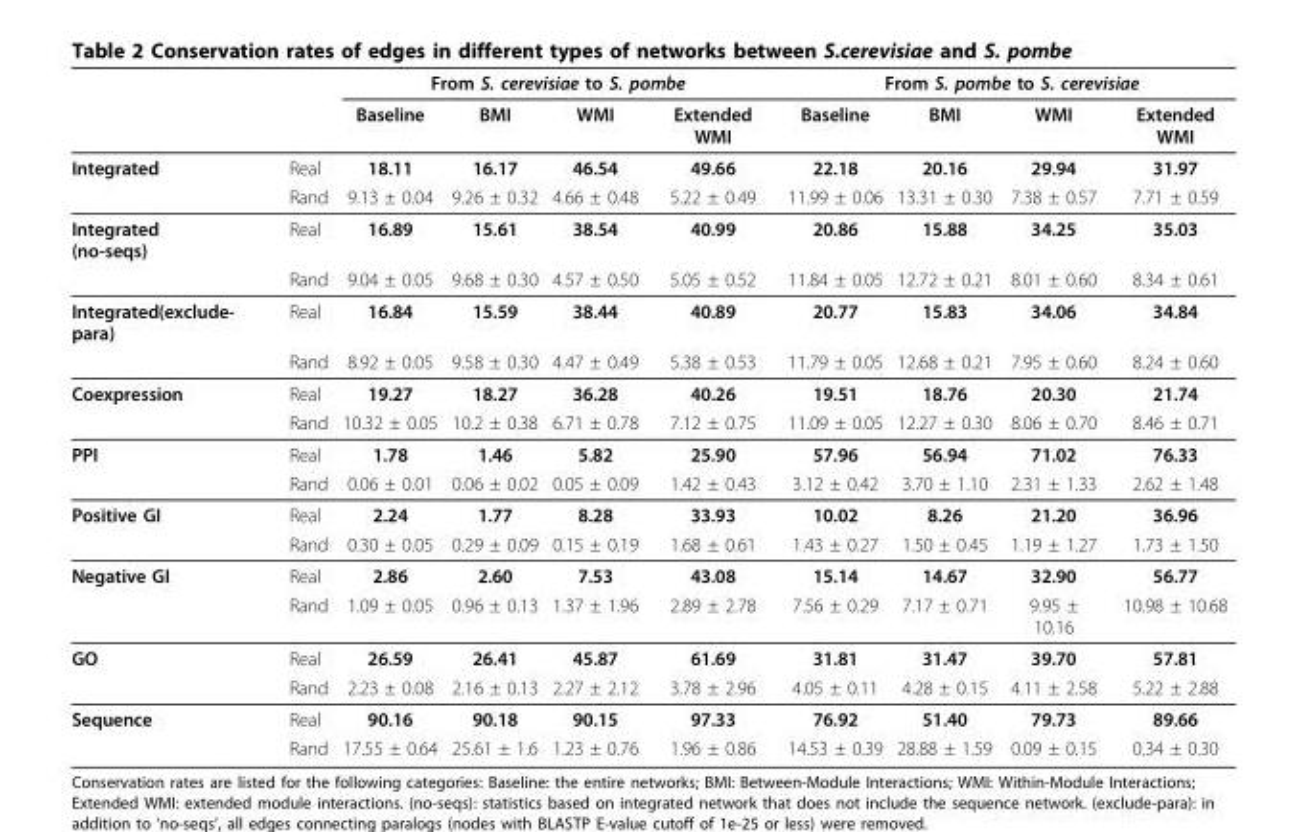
<table><thead><tr><td rowspan="2"></td><td rowspan="2"></td><td colspan="4">From S. cerevisiae to S. pombe</td><td colspan="4">From S. pombe to S. cerevisiae</td></tr><tr><td>Baseline</td><td>BMI</td><td>WMI</td><td>Extended WMI</td><td>Baseline</td><td>BMI</td><td>WMI</td><td>Extended WMI</td></tr></thead><tbody><tr><td rowspan="2">Integrated</td><td>Real</td><td>18.11</td><td>16.17</td><td>46.54</td><td>49.66</td><td>22.18</td><td>20.16</td><td>29.94</td><td>31.97</td></tr><tr><td>Rand</td><td>9.13 ± 0.04</td><td>9.26 ± 0.32</td><td>4.66 ± 0.48</td><td>5.22 ± 0.49</td><td>11.99 ± 0.06</td><td>13.31 ± 0.30</td><td>7.38 ± 0.57</td><td>7.71 ± 0.59</td></tr><tr><td rowspan="2">Integrated (no-seqs)</td><td>Real</td><td>16.89</td><td>15.61</td><td>38.54</td><td>40.99</td><td>20.86</td><td>15.88</td><td>34.25</td><td>35.03</td></tr><tr><td>Rand</td><td>9.04 ± 0.05</td><td>9.68 ± 0.30</td><td>4.57 ± 0.50</td><td>5.05 ± 0.52</td><td>11.84 ± 0.05</td><td>12.72 ± 0.21</td><td>8.01 ± 0.60</td><td>8.34 ± 0.61</td></tr><tr><td rowspan="2">Integrated(exclude- para)</td><td>Real</td><td>16.84</td><td>15.59</td><td>38.44</td><td>40.89</td><td>20.77</td><td>15.83</td><td>34.06</td><td>34.84</td></tr><tr><td>Rand</td><td>8.92 ± 0.05</td><td>9.58 ± 0.30</td><td>4.47 ± 0.49</td><td>5.38 ± 0.53</td><td>11.79 ± 0.05</td><td>12.68 ± 0.21</td><td>7.95 ± 0.60</td><td>8.24 ± 0.60</td></tr><tr><td rowspan="2">Coexpression</td><td>Real</td><td>19.27</td><td>18.27</td><td>36.28</td><td>40.26</td><td>19.51</td><td>18.76</td><td>20.30</td><td>21.74</td></tr><tr><td>Rand</td><td>10.32 ± 0.05</td><td>10.2 ± 0.38</td><td>6.71 ± 0.78</td><td>7.12 ± 0.75</td><td>11.09 ± 0.05</td><td>12.27 ± 0.30</td><td>8.06 ± 0.70</td><td>8.46 ± 0.71</td></tr><tr><td rowspan="2">PPI</td><td>Real</td><td>1.78</td><td>1.46</td><td>5.82</td><td>25.90</td><td>57.96</td><td>56.94</td><td>71.02</td><td>76.33</td></tr><tr><td>Rand</td><td>0.06 ± 0.01</td><td>0.06 ± 0.02</td><td>0.05 ± 0.09</td><td>1.42 ± 0.43</td><td>3.12 ± 0.42</td><td>3.70 ± 1.10</td><td>2.31 ± 1.33</td><td>2.62 ± 1.48</td></tr><tr><td rowspan="2">Positive GI</td><td>Real</td><td>2.24</td><td>1.77</td><td>8.28</td><td>33.93</td><td>10.02</td><td>8.26</td><td>21.20</td><td>36.96</td></tr><tr><td>Rand</td><td>0.30 ± 0.05</td><td>0.29 ± 0.09</td><td>0.15 ± 0.19</td><td>1.68 ± 0.61</td><td>1.43 ± 0.27</td><td>1.50 ± 0.45</td><td>1.19 ± 1.27</td><td>1.73 ± 1.50</td></tr><tr><td rowspan="2">Negative GI</td><td>Real</td><td>2.86</td><td>2.60</td><td>7.53</td><td>43.08</td><td>15.14</td><td>14.67</td><td>32.90</td><td>56.77</td></tr><tr><td>Rand</td><td>1.09 ± 0.05</td><td>0.96 ± 0.13</td><td>1.37 ± 1.96</td><td>2.89 ± 2.78</td><td>7.56 ± 0.29</td><td>7.17 ± 0.71</td><td>9.95 ± 10.16</td><td>10.98 ± 10.68</td></tr><tr><td rowspan="2">GO</td><td>Real</td><td>26.59</td><td>26.41</td><td>45.87</td><td>61.69</td><td>31.81</td><td>31.47</td><td>39.70</td><td>57.81</td></tr><tr><td>Rand</td><td>2.23 ± 0.08</td><td>2.16 ± 0.13</td><td>2.27 ± 2.12</td><td>3.78 ± 2.96</td><td>4.05 ± 0.11</td><td>4.28 ± 0.15</td><td>4.11 ± 2.58</td><td>5.22 ± 2.88</td></tr><tr><td rowspan="2">Sequence</td><td>Real</td><td>90.16</td><td>90.18</td><td>90.15</td><td>97.33</td><td>76.92</td><td>51.40</td><td>79.73</td><td>89.66</td></tr><tr><td>Rand</td><td>17.55 ± 0.64</td><td>25.61 ± 1.6</td><td>1.23 ± 0.76</td><td>1.96 ± 0.86</td><td>14.53 ± 0.39</td><td>28.88 ± 1.59</td><td>0.09 ± 0.15</td><td>0.34 ± 0.30</td></tr></tbody></table>